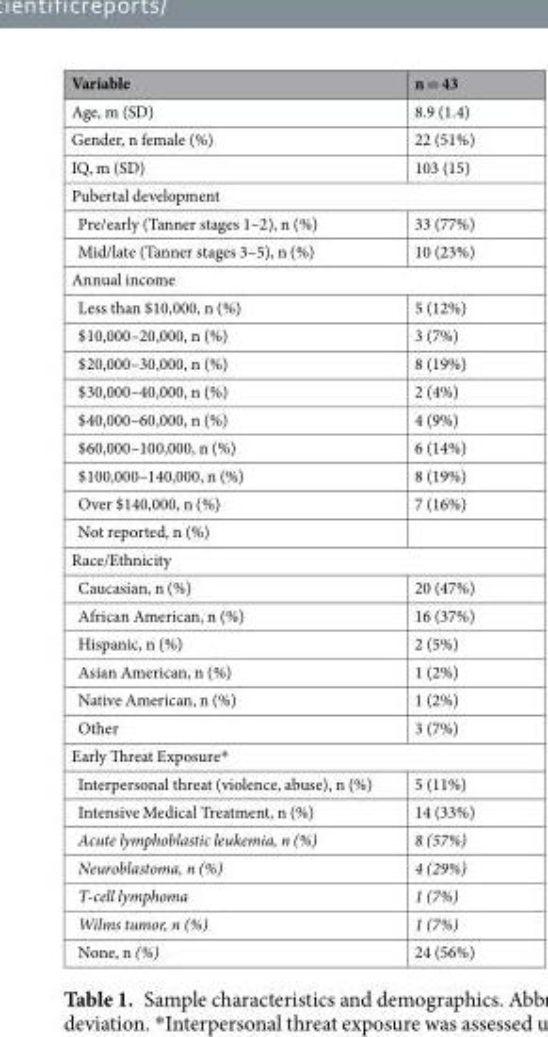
<table><thead><tr><td>Variable</td><td>n = 43</td></tr></thead><tbody><tr><td>Age, m (SD)</td><td>8.9 (1.4)</td></tr><tr><td>Gender, n female (%)</td><td>22 (51%)</td></tr><tr><td>IQ, m (SD)</td><td>103 (15)</td></tr><tr><td colspan="2">Pubertal development</td></tr><tr><td>Pre/early (Tanner stages 1–2), n (%)</td><td>33 (77%)</td></tr><tr><td>Mid/late (Tanner stages 3–5), n (%)</td><td>10 (23%)</td></tr><tr><td colspan="2">Annual income</td></tr><tr><td>Less than $10,000, n (%)</td><td>5 (12%)</td></tr><tr><td>$10,000–20,000, n (%)</td><td>3 (7%)</td></tr><tr><td>$20,000–30,000, n (%)</td><td>8 (19%)</td></tr><tr><td>$30,000–40,000, n (%)</td><td>2 (4%)</td></tr><tr><td>$40,000–60,000, n (%)</td><td>4 (9%)</td></tr><tr><td>$60,000–100,000, n (%)</td><td>6 (14%)</td></tr><tr><td>$100,000–140,000, n (%)</td><td>8 (19%)</td></tr><tr><td>Over $140,000, n (%)</td><td>7 (16%)</td></tr><tr><td colspan="2">Not reported, n (%)</td></tr><tr><td colspan="2">Race/Ethnicity</td></tr><tr><td>Caucasian, n (%)</td><td>20 (47%)</td></tr><tr><td>African American, n (%)</td><td>16 (37%)</td></tr><tr><td>Hispanic, n (%)</td><td>2 (5%)</td></tr><tr><td>Asian American, n (%)</td><td>1 (2%)</td></tr><tr><td>Native American, n (%)</td><td>1 (2%)</td></tr><tr><td>Other</td><td>3 (7%)</td></tr><tr><td colspan="2">Early Threat Exposure*</td></tr><tr><td>Interpersonal threat (violence, abuse), n (%)</td><td>5 (11%)</td></tr><tr><td>Intensive Medical Treatment, n (%)</td><td>14 (33%)</td></tr><tr><td>Acute lymphoblastic leukemia, n (%)</td><td>8 (57%)</td></tr><tr><td>Neuroblastoma, n (%)</td><td>4 (29%)</td></tr><tr><td>T-cell lymphoma</td><td>1 (7%)</td></tr><tr><td>Wilms tumor, n (%)</td><td>1 (7%)</td></tr><tr><td>None, n (%)</td><td>24 (56%)</td></tr></tbody></table>